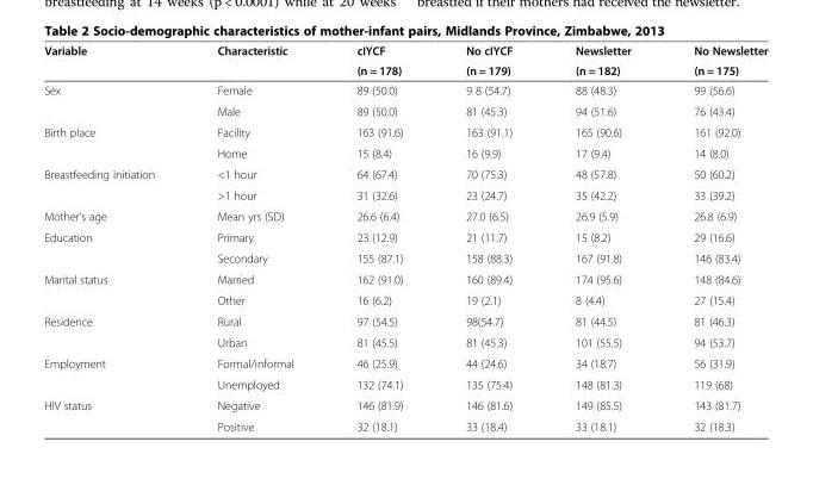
<table><thead><tr><td rowspan="2">Variable</td><td rowspan="2">Characteristic</td><td rowspan="2">cIYCF (n = 178)</td><td rowspan="2">No cIYCF (n = 179)</td><td rowspan="2">Newsletter (n = 182)</td><td rowspan="2">No Newsletter (n = 175)</td></tr><tr></tr></thead><tbody><tr><td rowspan="2">Sex</td><td>Female</td><td>89 (50.0)</td><td>9 8 (54.7)</td><td>88 (48.3)</td><td>99 (56.6)</td></tr><tr><td>Male</td><td>89 (50.0)</td><td>81 (45.3)</td><td>94 (51.6)</td><td>76 (43.4)</td></tr><tr><td rowspan="2">Birth place</td><td>Facility</td><td>163 (91.6)</td><td>163 (91.1)</td><td>165 (90.6)</td><td>161 (92.0)</td></tr><tr><td>Home</td><td>15 (8.4)</td><td>16 (9.9)</td><td>17 (9.4)</td><td>14 (8.0)</td></tr><tr><td rowspan="2">Breastfeeding initiation</td><td>&lt;1 hour</td><td>64 (67.4)</td><td>70 (75.3)</td><td>48 (57.8)</td><td>50 (60.2)</td></tr><tr><td>&gt;1 hour</td><td>31 (32.6)</td><td>23 (24.7)</td><td>35 (42.2)</td><td>33 (39.2)</td></tr><tr><td>Mother’s age</td><td>Mean yrs (SD)</td><td>26.6 (6.4)</td><td>27.0 (6.5)</td><td>26.9 (5.9)</td><td>26.8 (6.9)</td></tr><tr><td rowspan="2">Education</td><td>Primary</td><td>23 (12.9)</td><td>21 (11.7)</td><td>15 (8.2)</td><td>29 (16.6)</td></tr><tr><td>Secondary</td><td>155 (87.1)</td><td>158 (88.3)</td><td>167 (91.8)</td><td>146 (83.4)</td></tr><tr><td rowspan="2">Marital status</td><td>Married</td><td>162 (91.0)</td><td>160 (89.4)</td><td>174 (95.6)</td><td>148 (84.6)</td></tr><tr><td>Other</td><td>16 (6.2)</td><td>19 (2.1)</td><td>8 (4.4)</td><td>27 (15.4)</td></tr><tr><td rowspan="2">Residence</td><td>Rural</td><td>97 (54.5)</td><td>98(54.7)</td><td>81 (44.5)</td><td>81 (46.3)</td></tr><tr><td>Urban</td><td>81 (45.5)</td><td>81 (45.3)</td><td>101 (55.5)</td><td>94 (53.7)</td></tr><tr><td rowspan="2">Employment</td><td>Formal/informal</td><td>46 (25.9)</td><td>44 (24.6)</td><td>34 (18.7)</td><td>56 (31.9)</td></tr><tr><td>Unemployed</td><td>132 (74.1)</td><td>135 (75.4)</td><td>148 (81.3)</td><td>119 (68)</td></tr><tr><td rowspan="2">HIV status</td><td>Negative</td><td>146 (81.9)</td><td>146 (81.6)</td><td>149 (85.5)</td><td>143 (81.7)</td></tr><tr><td>Positive</td><td>32 (18.1)</td><td>33 (18.4)</td><td>33 (18.1)</td><td>32 (18.3)</td></tr></tbody></table>